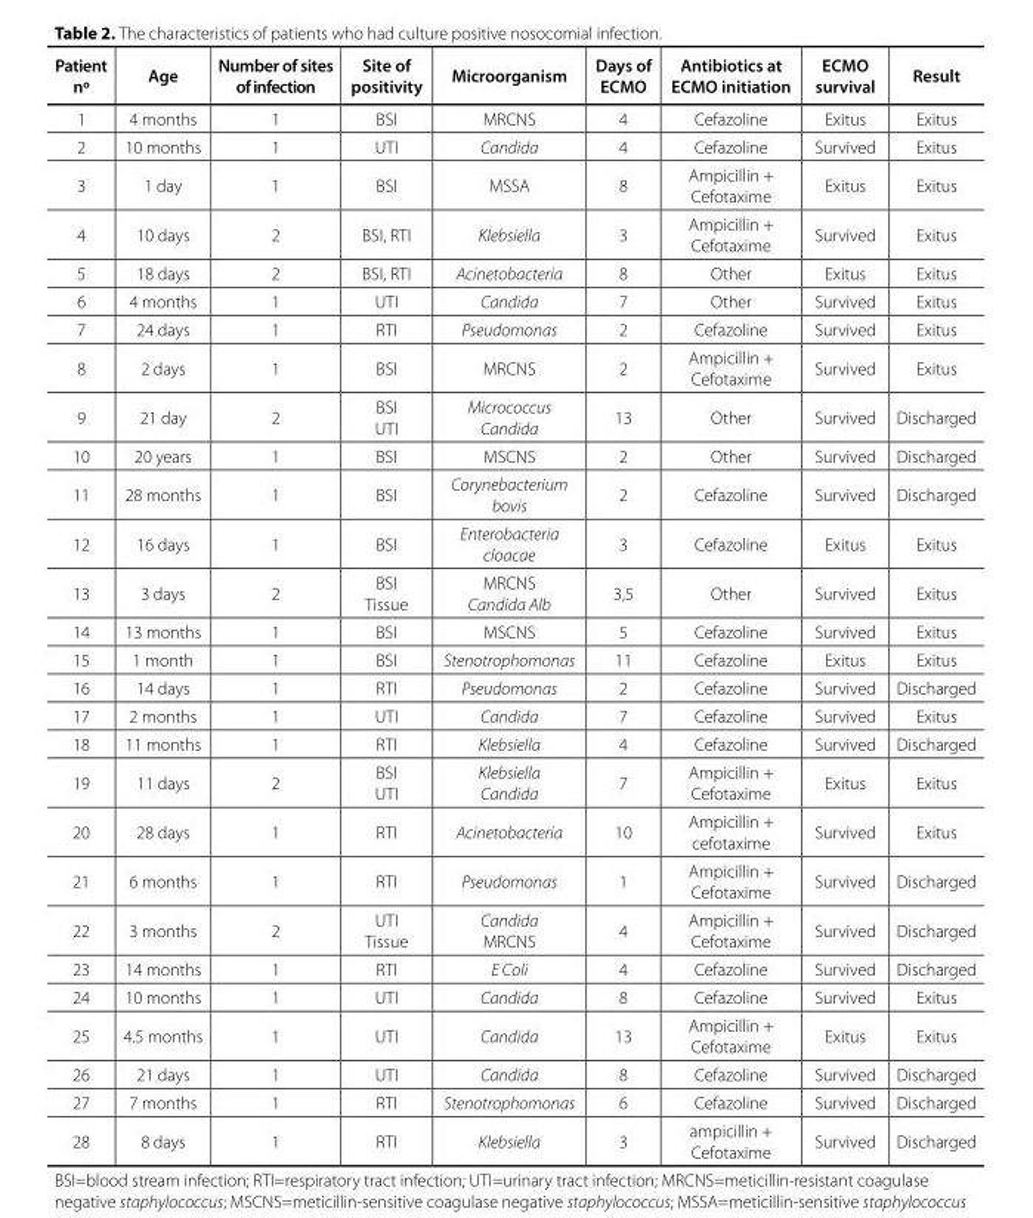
<table><thead><tr><td>Patient nº</td><td>Age</td><td>Number of sites of infection</td><td>Site of positivity</td><td>Microorganism</td><td>Days of ECMO</td><td>Antibiotics at ECMO initiation</td><td>ECMO survival</td><td>Result</td></tr></thead><tbody><tr><td>1</td><td>4 months</td><td>1</td><td>BSI</td><td>MRCNS</td><td>4</td><td>Cefazoline</td><td>Exitus</td><td>Exitus</td></tr><tr><td>2</td><td>10 months</td><td>1</td><td>UTI</td><td>Candida</td><td>4</td><td>Cefazoline</td><td>Survived</td><td>Exitus</td></tr><tr><td>3</td><td>1 day</td><td>1</td><td>BSI</td><td>MSSA</td><td>8</td><td>Ampicillin + Cefotaxime</td><td>Exitus</td><td>Exitus</td></tr><tr><td>4</td><td>10 days</td><td>2</td><td>BSI, RTI</td><td>Klebsiella</td><td>3</td><td>Ampicillin + Cefotaxime</td><td>Survived</td><td>Exitus</td></tr><tr><td>5</td><td>18 days</td><td>2</td><td>BSI, RTI</td><td>Acinetobacteria</td><td>8</td><td>Other</td><td>Exitus</td><td>Exitus</td></tr><tr><td>6</td><td>4 months</td><td>1</td><td>UTI</td><td>Candida</td><td>7</td><td>Other</td><td>Survived</td><td>Exitus</td></tr><tr><td>7</td><td>24 days</td><td>1</td><td>RTI</td><td>Pseudomonas</td><td>2</td><td>Cefazoline</td><td>Survived</td><td>Exitus</td></tr><tr><td>8</td><td>2 days</td><td>1</td><td>BSI</td><td>MRCNS</td><td>2</td><td>Ampicillin + Cefotaxime</td><td>Survived</td><td>Exitus</td></tr><tr><td>9</td><td>21 day</td><td>2</td><td>BSI UTI</td><td>Micrococcus Candida</td><td>13</td><td>Other</td><td>Survived</td><td>Discharged</td></tr><tr><td>10</td><td>20 years</td><td>1</td><td>BSI</td><td>MSCNS</td><td>2</td><td>Other</td><td>Survived</td><td>Discharged</td></tr><tr><td>11</td><td>28 months</td><td>1</td><td>BSI</td><td>Corynebacterium bovis</td><td>2</td><td>Cefazoline</td><td>Survived</td><td>Discharged</td></tr><tr><td>12</td><td>16 days</td><td>1</td><td>BSI</td><td>Enterobacteria cloacae</td><td>3</td><td>Cefazoline</td><td>Exitus</td><td>Exitus</td></tr><tr><td>13</td><td>3 days</td><td>2</td><td>BSI Tissue</td><td>MRCNS Candida Alb</td><td>3,5</td><td>Other</td><td>Survived</td><td>Exitus</td></tr><tr><td>14</td><td>13 months</td><td>1</td><td>BSI</td><td>MSCNS</td><td>5</td><td>Cefazoline</td><td>Survived</td><td>Exitus</td></tr><tr><td>15</td><td>1 month</td><td>1</td><td>BSI</td><td>Stenotrophomonas</td><td>11</td><td>Cefazoline</td><td>Exitus</td><td>Exitus</td></tr><tr><td>16</td><td>14 days</td><td>1</td><td>RTI</td><td>Pseudomonas</td><td>2</td><td>Cefazoline</td><td>Survived</td><td>Discharged</td></tr><tr><td>17</td><td>2 months</td><td>1</td><td>UTI</td><td>Candida</td><td>7</td><td>Cefazoline</td><td>Survived</td><td>Exitus</td></tr><tr><td>18</td><td>11 months</td><td>1</td><td>RTI</td><td>Klebsiella</td><td>4</td><td>Cefazoline</td><td>Survived</td><td>Discharged</td></tr><tr><td>19</td><td>11 days</td><td>2</td><td>BSI UTI</td><td>Klebsiella Candida</td><td>7</td><td>Ampicillin + Cefotaxime</td><td>Exitus</td><td>Exitus</td></tr><tr><td>20</td><td>28 days</td><td>1</td><td>RTI</td><td>Acinetobacteria</td><td>10</td><td>Ampicillin + cefotaxime</td><td>Survived</td><td>Exitus</td></tr><tr><td>21</td><td>6 months</td><td>1</td><td>RTI</td><td>Pseudomonas</td><td>1</td><td>Ampicillin + Cefotaxime</td><td>Survived</td><td>Discharged</td></tr><tr><td>22</td><td>3 months</td><td>2</td><td>UTI Tissue</td><td>Candida MRCNS</td><td>4</td><td>Ampicillin + Cefotaxime</td><td>Survived</td><td>Discharged</td></tr><tr><td>23</td><td>14 months</td><td>1</td><td>RTI</td><td>E Coli</td><td>4</td><td>Cefazoline</td><td>Survived</td><td>Discharged</td></tr><tr><td>24</td><td>10 months</td><td>1</td><td>UTI</td><td>Candida</td><td>8</td><td>Cefazoline</td><td>Survived</td><td>Exitus</td></tr><tr><td>25</td><td>4.5 months</td><td>1</td><td>UTI</td><td>Candida</td><td>13</td><td>Ampicillin + Cefotaxime</td><td>Exitus</td><td>Exitus</td></tr><tr><td>26</td><td>21 days</td><td>1</td><td>UTI</td><td>Candida</td><td>8</td><td>Cefazoline</td><td>Survived</td><td>Discharged</td></tr><tr><td>27</td><td>7 months</td><td>1</td><td>RTI</td><td>Stenotrophomonas</td><td>6</td><td>Cefazoline</td><td>Survived</td><td>Discharged</td></tr><tr><td>28</td><td>8 days</td><td>1</td><td>RTI</td><td>Klebsiella</td><td>3</td><td>ampicillin + Cefotaxime</td><td>Survived</td><td>Discharged</td></tr></tbody></table>